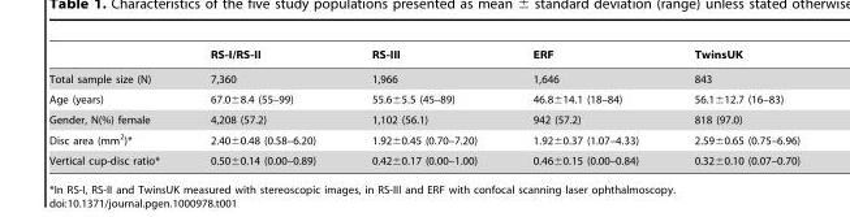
<table><thead><tr><td></td><td>RS-I/RS-II</td><td>RS-III</td><td>ERF</td><td>TwinsUK</td></tr></thead><tbody><tr><td>Total sample size (N)</td><td>7,360</td><td>1,966</td><td>1,646</td><td>843</td></tr><tr><td>Age (years)</td><td>67.0±8.4 (55–99)</td><td>55.6±5.5 (45–89)</td><td>46.8±14.1 (18–84)</td><td>56.1±12.7 (16–83)</td></tr><tr><td>Gender, N(%) female</td><td>4,208 (57.2)</td><td>1,102 (56.1)</td><td>942 (57.2)</td><td>818 (97.0)</td></tr><tr><td>Disc area (mm<sup>2</sup>)*</td><td>2.40±0.48 (0.58–6.20)</td><td>1.92±0.45 (0.70–7.20)</td><td>1.92±0.37 (1.07–4.33)</td><td>2.59±0.65 (0.75–6.96)</td></tr><tr><td>Vertical cup-disc ratio*</td><td>0.50±0.14 (0.00–0.89)</td><td>0.42±0.17 (0.00–1.00)</td><td>0.46±0.15 (0.00–0.84)</td><td>0.32±0.10 (0.07–0.70)</td></tr></tbody></table>